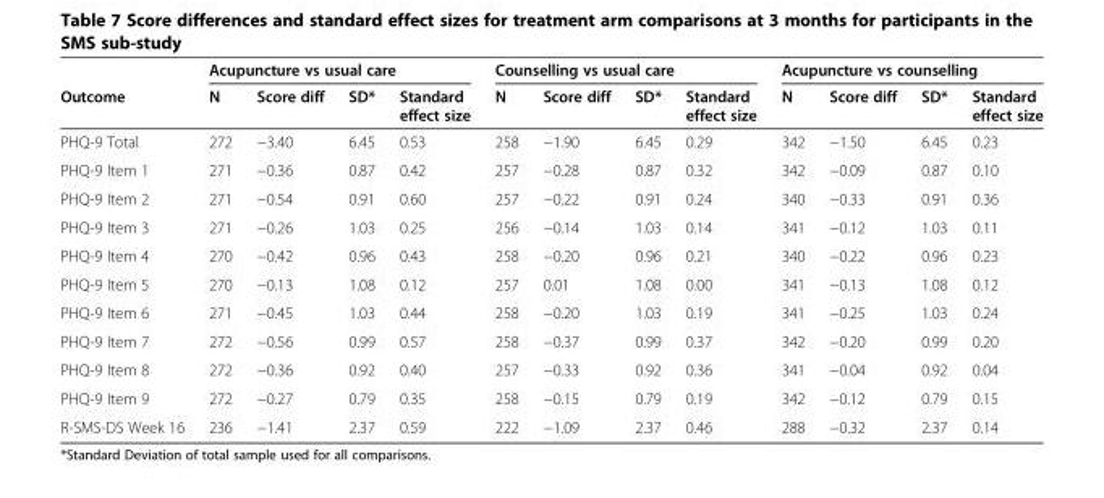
<table><thead><tr><td rowspan="2">Outcome</td><td colspan="4">Acupuncture vs usual care</td><td colspan="4">Counselling vs usual care</td><td colspan="4">Acupuncture vs counselling</td></tr><tr><td>N</td><td>Score diff</td><td>SD*</td><td>Standard effect size</td><td>N</td><td>Score diff</td><td>SD*</td><td>Standard effect size</td><td>N</td><td>Score diff</td><td>SD*</td><td>Standard effect size</td></tr></thead><tbody><tr><td>PHQ-9 Total</td><td>272</td><td>−3.40</td><td>6.45</td><td>0.53</td><td>258</td><td>−1.90</td><td>6.45</td><td>0.29</td><td>342</td><td>−1.50</td><td>6.45</td><td>0.23</td></tr><tr><td>PHQ-9 Item 1</td><td>271</td><td>−0.36</td><td>0.87</td><td>0.42</td><td>257</td><td>−0.28</td><td>0.87</td><td>0.32</td><td>342</td><td>−0.09</td><td>0.87</td><td>0.10</td></tr><tr><td>PHQ-9 Item 2</td><td>271</td><td>−0.54</td><td>0.91</td><td>0.60</td><td>257</td><td>−0.22</td><td>0.91</td><td>0.24</td><td>340</td><td>−0.33</td><td>0.91</td><td>0.36</td></tr><tr><td>PHQ-9 Item 3</td><td>271</td><td>−0.26</td><td>1.03</td><td>0.25</td><td>256</td><td>−0.14</td><td>1.03</td><td>0.14</td><td>341</td><td>−0.12</td><td>1.03</td><td>0.11</td></tr><tr><td>PHQ-9 Item 4</td><td>270</td><td>−0.42</td><td>0.96</td><td>0.43</td><td>258</td><td>−0.20</td><td>0.96</td><td>0.21</td><td>340</td><td>−0.22</td><td>0.96</td><td>0.23</td></tr><tr><td>PHQ-9 Item 5</td><td>270</td><td>−0.13</td><td>1.08</td><td>0.12</td><td>257</td><td>0.01</td><td>1.08</td><td>0.00</td><td>341</td><td>−0.13</td><td>1.08</td><td>0.12</td></tr><tr><td>PHQ-9 Item 6</td><td>271</td><td>−0.45</td><td>1.03</td><td>0.44</td><td>258</td><td>−0.20</td><td>1.03</td><td>0.19</td><td>341</td><td>−0.25</td><td>1.03</td><td>0.24</td></tr><tr><td>PHQ-9 Item 7</td><td>272</td><td>−0.56</td><td>0.99</td><td>0.57</td><td>258</td><td>−0.37</td><td>0.99</td><td>0.37</td><td>342</td><td>−0.20</td><td>0.99</td><td>0.20</td></tr><tr><td>PHQ-9 Item 8</td><td>272</td><td>−0.36</td><td>0.92</td><td>0.40</td><td>257</td><td>−0.33</td><td>0.92</td><td>0.36</td><td>341</td><td>−0.04</td><td>0.92</td><td>0.04</td></tr><tr><td>PHQ-9 Item 9</td><td>272</td><td>−0.27</td><td>0.79</td><td>0.35</td><td>258</td><td>−0.15</td><td>0.79</td><td>0.19</td><td>342</td><td>−0.12</td><td>0.79</td><td>0.15</td></tr><tr><td>R-SMS-DS Week 16</td><td>236</td><td>−1.41</td><td>2.37</td><td>0.59</td><td>222</td><td>−1.09</td><td>2.37</td><td>0.46</td><td>288</td><td>−0.32</td><td>2.37</td><td>0.14</td></tr></tbody></table>